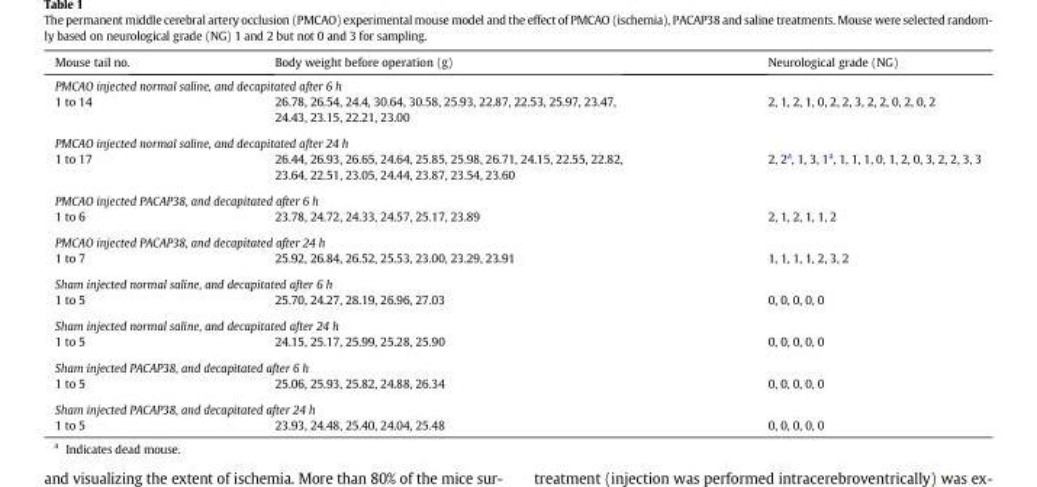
<table><thead><tr><td>Mouse tail no.</td><td>Body weight before operation (g)</td><td>Neurological grade (NG)</td></tr></thead><tbody><tr><td colspan="3">PMCAO injected normal saline, and decapitated after 6 h</td></tr><tr><td>1 to 14</td><td>26.78, 26.54, 24.4, 30.64, 30.58, 25.93, 22.87, 22.53, 25.97, 23.47, 24.43, 23.15, 22.21, 23.00</td><td>2, 1, 2, 1, 0, 2, 2, 3, 2, 2, 0, 2, 0, 2</td></tr><tr><td colspan="3">PMCAO injected normal saline, and decapitated after 24 h</td></tr><tr><td>1 to 17</td><td>26.44, 26.93, 26.65, 24.64, 25.85, 25.98, 26.71, 24.15, 22.55, 22.82, 23.64, 22.51, 23.05, 24.44, 23.87, 23.54, 23.60</td><td>2, 2<sup>a</sup>, 1, 3, 1<sup>a</sup>, 1, 1, 1, 0, 1, 2, 0, 3, 2, 2, 3, 3</td></tr><tr><td colspan="3">PMCAO injected PACAP38, and decapitated after 6 h</td></tr><tr><td>1 to 6</td><td>23.78, 24.72, 24.33, 24.57, 25.17, 23.89</td><td>2, 1, 2, 1, 1, 2</td></tr><tr><td colspan="3">PMCAO injected PACAP38, and decapitated after 24 h</td></tr><tr><td>1 to 7</td><td>25.92, 26.84, 26.52, 25.53, 23.00, 23.29, 23.91</td><td>1, 1, 1, 1, 2, 3, 2</td></tr><tr><td colspan="3">Sham injected normal saline, and decapitated after 6 h</td></tr><tr><td>1 to 5</td><td>25.70, 24.27, 28.19, 26.96, 27.03</td><td>0, 0, 0, 0, 0</td></tr><tr><td colspan="3">Sham injected normal saline, and decapitated after 24 h</td></tr><tr><td>1 to 5</td><td>24.15, 25.17, 25.99, 25.28, 25.90</td><td>0, 0, 0, 0, 0</td></tr><tr><td colspan="3">Sham injected PACAP38, and decapitated after 6 h</td></tr><tr><td>1 to 5</td><td>25.06, 25.93, 25.82, 24.88, 26.34</td><td>0, 0, 0, 0, 0</td></tr><tr><td colspan="3">Sham injected PACAP38, and decapitated after 24 h</td></tr><tr><td>1 to 5</td><td>23.93, 24.48, 25.40, 24.04, 25.48</td><td>0, 0, 0, 0, 0</td></tr></tbody></table>